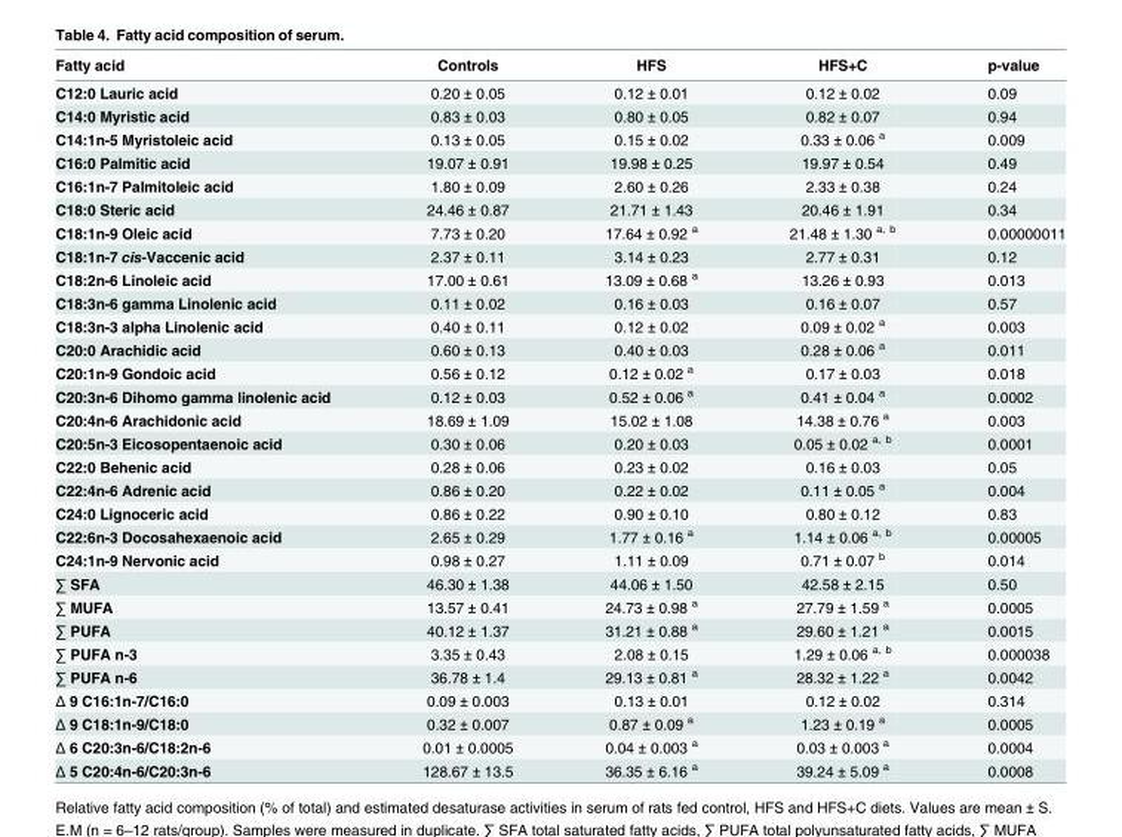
<table><thead><tr><td>Fatty acid</td><td>Controls</td><td>HFS</td><td>HFS+C</td><td>p-value</td></tr></thead><tbody><tr><td>C12:0 Lauric acid</td><td>0.20 ± 0.05</td><td>0.12 ± 0.01</td><td>0.12 ± 0.02</td><td>0.09</td></tr><tr><td>C14:0 Myristic acid</td><td>0.83 ± 0.03</td><td>0.80 ± 0.05</td><td>0.82 ± 0.07</td><td>0.94</td></tr><tr><td>C14:1n-5 Myristoleic acid</td><td>0.13 ± 0.05</td><td>0.15 ± 0.02</td><td>0.33 ± 0.06 <sup>a</sup></td><td>0.009</td></tr><tr><td>C16:0 Palmitic acid</td><td>19.07 ± 0.91</td><td>19.98 ± 0.25</td><td>19.97 ± 0.54</td><td>0.49</td></tr><tr><td>C16:1n-7 Palmitoleic acid</td><td>1.80 ± 0.09</td><td>2.60 ± 0.26</td><td>2.33 ± 0.38</td><td>0.24</td></tr><tr><td>C18:0 Steric acid</td><td>24.46 ± 0.87</td><td>21.71 ± 1.43</td><td>20.46 ± 1.91</td><td>0.34</td></tr><tr><td>C18:1n-9 Oleic acid</td><td>7.73 ± 0.20</td><td>17.64 ± 0.92 <sup>a</sup></td><td>21.48 ± 1.30 <sup>a, b</sup></td><td>0.00000011</td></tr><tr><td>C18:1n-7 cis-Vaccenic acid</td><td>2.37 ± 0.11</td><td>3.14 ± 0.23</td><td>2.77 ± 0.31</td><td>0.12</td></tr><tr><td>C18:2n-6 Linoleic acid</td><td>17.00 ± 0.61</td><td>13.09 ± 0.68 <sup>a</sup></td><td>13.26 ± 0.93</td><td>0.013</td></tr><tr><td>C18:3n-6 gamma Linolenic acid</td><td>0.11 ± 0.02</td><td>0.16 ± 0.03</td><td>0.16 ± 0.07</td><td>0.57</td></tr><tr><td>C18:3n-3 alpha Linolenic acid</td><td>0.40 ± 0.11</td><td>0.12 ± 0.02</td><td>0.09 ± 0.02 <sup>a</sup></td><td>0.003</td></tr><tr><td>C20:0 Arachidic acid</td><td>0.60 ± 0.13</td><td>0.40 ± 0.03</td><td>0.28 ± 0.06 <sup>a</sup></td><td>0.011</td></tr><tr><td>C20:1n-9 Gondoic acid</td><td>0.56 ± 0.12</td><td>0.12 ± 0.02 <sup>a</sup></td><td>0.17 ± 0.03</td><td>0.018</td></tr><tr><td>C20:3n-6 Dihomo gamma linolenic acid</td><td>0.12 ± 0.03</td><td>0.52 ± 0.06 <sup>a</sup></td><td>0.41 ± 0.04 <sup>a</sup></td><td>0.0002</td></tr><tr><td>C20:4n-6 Arachidonic acid</td><td>18.69 ± 1.09</td><td>15.02 ± 1.08</td><td>14.38 ± 0.76 <sup>a</sup></td><td>0.003</td></tr><tr><td>C20:5n-3 Eicosopentaenoic acid</td><td>0.30 ± 0.06</td><td>0.20 ± 0.03</td><td>0.05 ± 0.02 <sup>a, b</sup></td><td>0.0001</td></tr><tr><td>C22:0 Behenic acid</td><td>0.28 ± 0.06</td><td>0.23 ± 0.02</td><td>0.16 ± 0.03</td><td>0.05</td></tr><tr><td>C22:4n-6 Adrenic acid</td><td>0.86 ± 0.20</td><td>0.22 ± 0.02</td><td>0.11 ± 0.05 <sup>a</sup></td><td>0.004</td></tr><tr><td>C24:0 Lignoceric acid</td><td>0.86 ± 0.22</td><td>0.90 ± 0.10</td><td>0.80 ± 0.12</td><td>0.83</td></tr><tr><td>C22:6n-3 Docosahexaenoic acid</td><td>2.65 ± 0.29</td><td>1.77 ± 0.16 <sup>a</sup></td><td>1.14 ± 0.06 <sup>a, b</sup></td><td>0.00005</td></tr><tr><td>C24:1n-9 Nervonic acid</td><td>0.98 ± 0.27</td><td>1.11 ± 0.09</td><td>0.71 ± 0.07 <sup>b</sup></td><td>0.014</td></tr><tr><td>∑ SFA</td><td>46.30 ± 1.38</td><td>44.06 ± 1.50</td><td>42.58 ± 2.15</td><td>0.50</td></tr><tr><td>∑ MUFA</td><td>13.57 ± 0.41</td><td>24.73 ± 0.98 <sup>a</sup></td><td>27.79 ± 1.59 <sup>a</sup></td><td>0.0005</td></tr><tr><td>∑ PUFA</td><td>40.12 ± 1.37</td><td>31.21 ± 0.88 <sup>a</sup></td><td>29.60 ± 1.21 <sup>a</sup></td><td>0.0015</td></tr><tr><td>∑ PUFA n-3</td><td>3.35 ± 0.43</td><td>2.08 ± 0.15</td><td>1.29 ± 0.06 <sup>a, b</sup></td><td>0.000038</td></tr><tr><td>∑ PUFA n-6</td><td>36.78 ± 1.4</td><td>29.13 ± 0.81 <sup>a</sup></td><td>28.32 ± 1.22 <sup>a</sup></td><td>0.0042</td></tr><tr><td>Δ 9 C16:1n-7/C16:0</td><td>0.09 ± 0.003</td><td>0.13 ± 0.01</td><td>0.12 ± 0.02</td><td>0.314</td></tr><tr><td>Δ 9 C18:1n-9/C18:0</td><td>0.32 ± 0.007</td><td>0.87 ± 0.09 <sup>a</sup></td><td>1.23 ± 0.19 <sup>a</sup></td><td>0.0005</td></tr><tr><td>Δ 6 C20:3n-6/C18:2n-6</td><td>0.01 ± 0.0005</td><td>0.04 ± 0.003 <sup>a</sup></td><td>0.03 ± 0.003 <sup>a</sup></td><td>0.0004</td></tr><tr><td>Δ 5 C20:4n-6/C20:3n-6</td><td>128.67 ± 13.5</td><td>36.35 ± 6.16 <sup>a</sup></td><td>39.24 ± 5.09 <sup>a</sup></td><td>0.0008</td></tr></tbody></table>